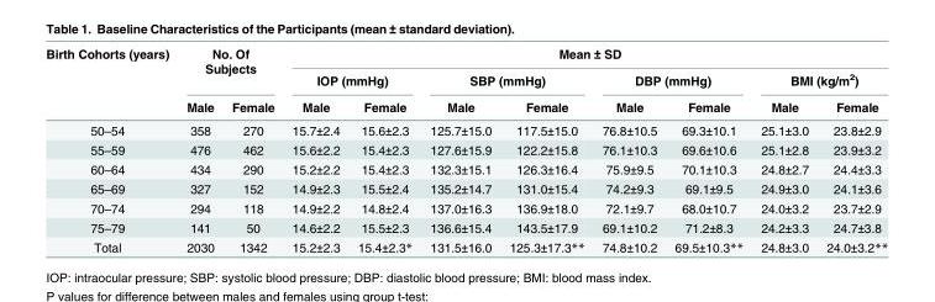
<table><thead><tr><td rowspan="3">Birth Cohorts (years)</td><td rowspan="2" colspan="2">No. Of Subjects</td><td colspan="8">Mean ± SD</td></tr><tr><td colspan="2">IOP (mmHg)</td><td colspan="2">SBP (mmHg)</td><td colspan="2">DBP (mmHg)</td><td colspan="2">BMI (kg/m<sup>2</sup>)</td></tr><tr><td>Male</td><td>Female</td><td>Male</td><td>Female</td><td>Male</td><td>Female</td><td>Male</td><td>Female</td><td>Male</td><td>Female</td></tr></thead><tbody><tr><td>50–54</td><td>358</td><td>270</td><td>15.7±2.4</td><td>15.6±2.3</td><td>125.7±15.0</td><td>117.5±15.0</td><td>76.8±10.5</td><td>69.3±10.1</td><td>25.1±3.0</td><td>23.8±2.9</td></tr><tr><td>55–59</td><td>476</td><td>462</td><td>15.6±2.2</td><td>15.4±2.3</td><td>127.6±15.9</td><td>122.2±15.8</td><td>76.1±10.3</td><td>69.6±10.6</td><td>25.1±2.8</td><td>23.9±3.2</td></tr><tr><td>60–64</td><td>434</td><td>290</td><td>15.2±2.2</td><td>15.4±2.3</td><td>132.3±15.1</td><td>126.3±16.4</td><td>75.9±9.5</td><td>70.1±10.3</td><td>24.8±2.7</td><td>24.4±3.3</td></tr><tr><td>65–69</td><td>327</td><td>152</td><td>14.9±2.3</td><td>15.5±2.4</td><td>135.2±14.7</td><td>131.0±15.4</td><td>74.2±9.3</td><td>69.1±9.5</td><td>24.9±3.0</td><td>24.1±3.6</td></tr><tr><td>70–74</td><td>294</td><td>118</td><td>14.9±2.2</td><td>14.8±2.4</td><td>137.0±16.3</td><td>136.9±18.0</td><td>72.1±9.7</td><td>68.0±10.7</td><td>24.0±3.2</td><td>23.7±2.9</td></tr><tr><td>75–79</td><td>141</td><td>50</td><td>14.6±2.2</td><td>15.5±2.3</td><td>136.6±15.4</td><td>143.5±17.9</td><td>69.1±10.2</td><td>71.2±8.3</td><td>24.2±3.3</td><td>24.7±3.8</td></tr><tr><td>Total</td><td>2030</td><td>1342</td><td>15.2±2.3</td><td>15.4±2.3*</td><td>131.5±16.0</td><td>125.3±17.3**</td><td>74.8±10.2</td><td>69.5±10.3**</td><td>24.8±3.0</td><td>24.0±3.2**</td></tr></tbody></table>